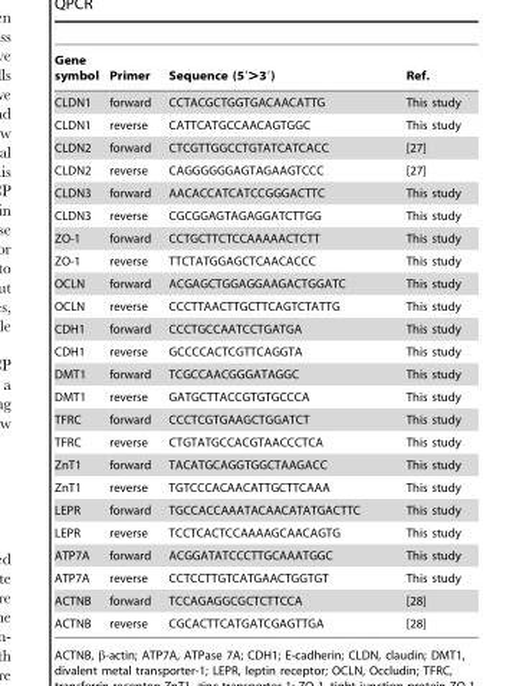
<table><thead><tr><td>Gene symbol</td><td>Primer</td><td>Sequence (59. .39)</td><td>Ref.</td></tr></thead><tbody><tr><td>CLDN1</td><td>forward</td><td>CCTACGCTGGTGACAACATTG</td><td>This study</td></tr><tr><td>CLDN1</td><td>reverse</td><td>CATTCATGCCAACAGTGGC</td><td>This study</td></tr><tr><td>CLDN2</td><td>forward</td><td>CTCGTTGGCCTGTATCATCACC</td><td>[27]</td></tr><tr><td>CLDN2</td><td>reverse</td><td>CAGGGGGGAGTAGAAGTCCC</td><td>[27]</td></tr><tr><td>CLDN3</td><td>forward</td><td>AACACCATCATCCGGGACTTC</td><td>This study</td></tr><tr><td>CLDN3</td><td>reverse</td><td>CGCGGAGTAGAGGATCTTGG</td><td>This study</td></tr><tr><td>ZO-1</td><td>forward</td><td>CCTGCTTCTCCAAAAACTCTT</td><td>This study</td></tr><tr><td>ZO-1</td><td>reverse</td><td>TTCTATGGAGCTCAACACCC</td><td>This study</td></tr><tr><td>OCLN</td><td>forward</td><td>ACGAGCTGGAGGAAGACTGGATC</td><td>This study</td></tr><tr><td>OCLN</td><td>reverse</td><td>CCCTTAACTTGCTTCAGTCTATTG</td><td>This study</td></tr><tr><td>CDH1</td><td>forward</td><td>CCCTGCCAATCCTGATGA</td><td>This study</td></tr><tr><td>CDH1</td><td>reverse</td><td>GCCCCACTCGTTCAGGTA</td><td>This study</td></tr><tr><td>DMT1</td><td>forward</td><td>TCGCCAACGGGATAGGC</td><td>This study</td></tr><tr><td>DMT1</td><td>reverse</td><td>GATGCTTACCGTGTGCCCA</td><td>This study</td></tr><tr><td>TFRC</td><td>forward</td><td>CCCTCGTGAAGCTGGATCT</td><td>This study</td></tr><tr><td>TFRC</td><td>reverse</td><td>CTGTATGCCACGTAACCCTCA</td><td>This study</td></tr><tr><td>ZnT1</td><td>forward</td><td>TACATGCAGGTGGCTAAGACC</td><td>This study</td></tr><tr><td>ZnT1</td><td>reverse</td><td>TGTCCCACAACATTGCTTCAAA</td><td>This study</td></tr><tr><td>LEPR</td><td>forward</td><td>TGCCACCAAATACAACATATGACTTC</td><td>This study</td></tr><tr><td>LEPR</td><td>reverse</td><td>TCCTCACTCCAAAAGCAACAGTG</td><td>This study</td></tr><tr><td>ATP7A</td><td>forward</td><td>ACGGATATCCCTTGCAAATGGC</td><td>This study</td></tr><tr><td>ATP7A</td><td>reverse</td><td>CCTCCTTGTCATGAACTGGTGT</td><td>This study</td></tr><tr><td>ACTNB</td><td>forward</td><td>TCCAGAGGCGCTCTTCCA</td><td>[28]</td></tr><tr><td>ACTNB</td><td>reverse</td><td>CGCACTTCATGATCGAGTTGA</td><td>[28]</td></tr></tbody></table>